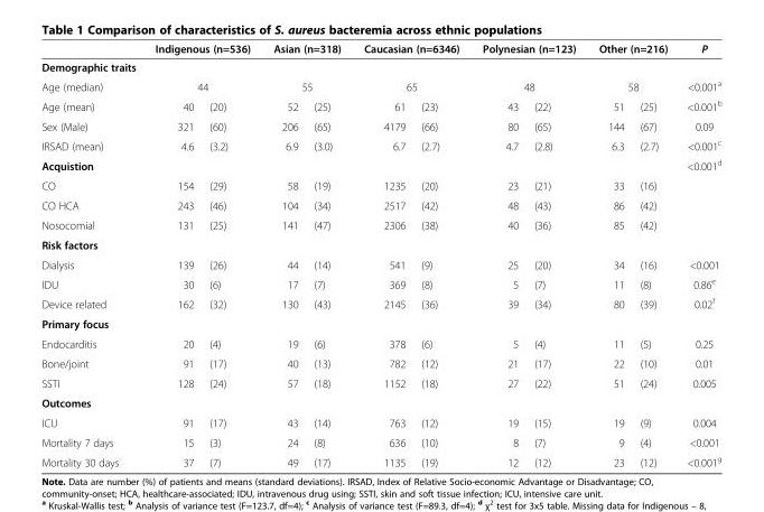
<table><thead><tr><td rowspan="4">Demographic traits Age (median) Age (mean)</td><td rowspan="3" colspan="2">Indigenous (n=536) 44</td><td rowspan="3" colspan="2">Asian (n=318) 55</td><td rowspan="3" colspan="2">Caucasian (n=6346) 65</td><td rowspan="3" colspan="2">Polynesian (n=123) 48</td><td rowspan="3" colspan="2">Other (n=216) 58</td><td rowspan="4">P &lt;0.001<sup>a</sup> &lt;0.001<sup>b</sup></td></tr><tr></tr><tr></tr><tr><td>40</td><td>(20)</td><td>52</td><td>(25)</td><td>61</td><td>(23)</td><td>43</td><td>(22)</td><td>51</td><td>(25)</td></tr></thead><tbody><tr><td>Sex (Male)</td><td>321</td><td>(60)</td><td>206</td><td>(65)</td><td>4179</td><td>(66)</td><td>80</td><td>(65)</td><td>144</td><td>(67)</td><td>0.09</td></tr><tr><td>IRSAD (mean)</td><td>4.6</td><td>(3.2)</td><td>6.9</td><td>(3.0)</td><td>6.7</td><td>(2.7)</td><td>4.7</td><td>(2.8)</td><td>6.3</td><td>(2.7)</td><td>&lt;0.001<sup>c</sup></td></tr><tr><td>Acquistion</td><td></td><td></td><td></td><td></td><td></td><td></td><td></td><td></td><td></td><td></td><td>&lt;0.001<sup>d</sup></td></tr><tr><td>CO</td><td>154</td><td>(29)</td><td>58</td><td>(19)</td><td>1235</td><td>(20)</td><td>23</td><td>(21)</td><td>33</td><td>(16)</td><td></td></tr><tr><td>CO HCA</td><td>243</td><td>(46)</td><td>104</td><td>(34)</td><td>2517</td><td>(42)</td><td>48</td><td>(43)</td><td>86</td><td>(42)</td><td></td></tr><tr><td>Nosocomial</td><td>131</td><td>(25)</td><td>141</td><td>(47)</td><td>2306</td><td>(38)</td><td>40</td><td>(36)</td><td>85</td><td>(42)</td><td></td></tr><tr><td colspan="12">Risk factors</td></tr><tr><td>Dialysis</td><td>139</td><td>(26)</td><td>44</td><td>(14)</td><td>541</td><td>(9)</td><td>25</td><td>(20)</td><td>34</td><td>(16)</td><td>&lt;0.001</td></tr><tr><td>IDU</td><td>30</td><td>(6)</td><td>17</td><td>(7)</td><td>369</td><td>(8)</td><td>5</td><td>(7)</td><td>11</td><td>(8)</td><td>0.86<sup>e</sup></td></tr><tr><td>Device related</td><td>162</td><td>(32)</td><td>130</td><td>(43)</td><td>2145</td><td>(36)</td><td>39</td><td>(34)</td><td>80</td><td>(39)</td><td>0.02<sup>f</sup></td></tr><tr><td colspan="12">Primary focus</td></tr><tr><td>Endocarditis</td><td>20</td><td>(4)</td><td>19</td><td>(6)</td><td>378</td><td>(6)</td><td>5</td><td>(4)</td><td>11</td><td>(5)</td><td>0.25</td></tr><tr><td>Bone/joint</td><td>91</td><td>(17)</td><td>40</td><td>(13)</td><td>782</td><td>(12)</td><td>21</td><td>(17)</td><td>22</td><td>(10)</td><td>0.01</td></tr><tr><td>SSTI</td><td>128</td><td>(24)</td><td>57</td><td>(18)</td><td>1152</td><td>(18)</td><td>27</td><td>(22)</td><td>51</td><td>(24)</td><td>0.005</td></tr><tr><td colspan="12">Outcomes</td></tr><tr><td>ICU</td><td>91</td><td>(17)</td><td>43</td><td>(14)</td><td>763</td><td>(12)</td><td>19</td><td>(15)</td><td>19</td><td>(9)</td><td>0.004</td></tr><tr><td>Mortality 7 days</td><td>15</td><td>(3)</td><td>24</td><td>(8)</td><td>636</td><td>(10)</td><td>8</td><td>(7)</td><td>9</td><td>(4)</td><td>&lt;0.001</td></tr><tr><td>Mortality 30 days</td><td>37</td><td>(7)</td><td>49</td><td>(17)</td><td>1135</td><td>(19)</td><td>12</td><td>(12)</td><td>23</td><td>(12)</td><td>&lt;0.001<sup>g</sup></td></tr></tbody></table>